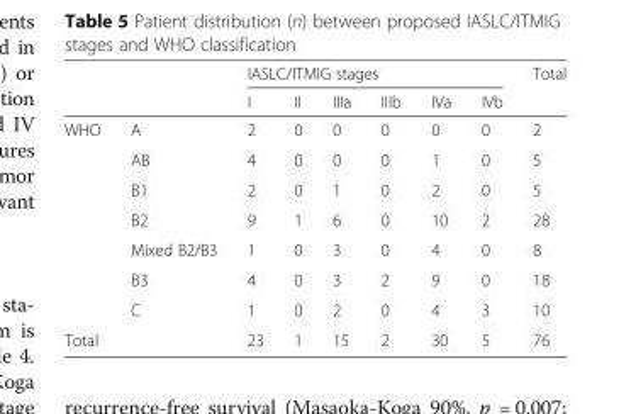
<table><thead><tr><td rowspan="2"></td><td rowspan="2"></td><td colspan="6">IASLC/ITMIG stages</td><td rowspan="2">Total</td></tr><tr><td>I</td><td>II</td><td>IIIa</td><td>IIIb</td><td>IVa</td><td>IVb</td></tr></thead><tbody><tr><td rowspan="7">WHO</td><td>A</td><td>2</td><td>0</td><td>0</td><td>0</td><td>0</td><td>0</td><td>2</td></tr><tr><td>AB</td><td>4</td><td>0</td><td>0</td><td>0</td><td>1</td><td>0</td><td>5</td></tr><tr><td>B1</td><td>2</td><td>0</td><td>1</td><td>0</td><td>2</td><td>0</td><td>5</td></tr><tr><td>B2</td><td>9</td><td>1</td><td>6</td><td>0</td><td>10</td><td>2</td><td>28</td></tr><tr><td>Mixed B2/B3</td><td>1</td><td>0</td><td>3</td><td>0</td><td>4</td><td>0</td><td>8</td></tr><tr><td>B3</td><td>4</td><td>0</td><td>3</td><td>2</td><td>9</td><td>0</td><td>18</td></tr><tr><td>C</td><td>1</td><td>0</td><td>2</td><td>0</td><td>4</td><td>3</td><td>10</td></tr><tr><td colspan="2">Total</td><td>23</td><td>1</td><td>15</td><td>2</td><td>30</td><td>5</td><td>76</td></tr></tbody></table>